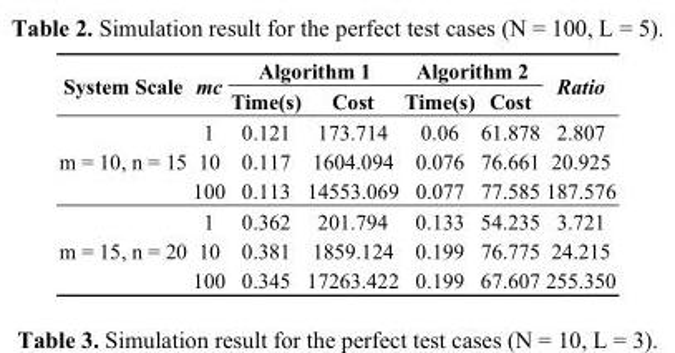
<table><thead><tr><td rowspan="2">System Scale</td><td rowspan="2">mc</td><td colspan="2">Algorithm 1</td><td colspan="2">Algorithm 2</td><td rowspan="2">Ratio</td></tr><tr><td>Time(s)</td><td>Cost</td><td>Time(s)</td><td>Cost</td></tr></thead><tbody><tr><td rowspan="3">m = 10, n = 15</td><td>1</td><td>0.121</td><td>173.714</td><td>0.06</td><td>61.878</td><td>2.807</td></tr><tr><td>10</td><td>0.117</td><td>1604.094</td><td>0.076</td><td>76.661</td><td>20.925</td></tr><tr><td>100</td><td>0.113</td><td>14553.069</td><td>0.077</td><td>77.585</td><td>187.576</td></tr><tr><td rowspan="3">m = 15, n = 20</td><td>1</td><td>0.362</td><td>201.794</td><td>0.133</td><td>54.235</td><td>3.721</td></tr><tr><td>10</td><td>0.381</td><td>1859.124</td><td>0.199</td><td>76.775</td><td>24.215</td></tr><tr><td>100</td><td>0.345</td><td>17263.422</td><td>0.199</td><td>67.607</td><td>255.350</td></tr></tbody></table>